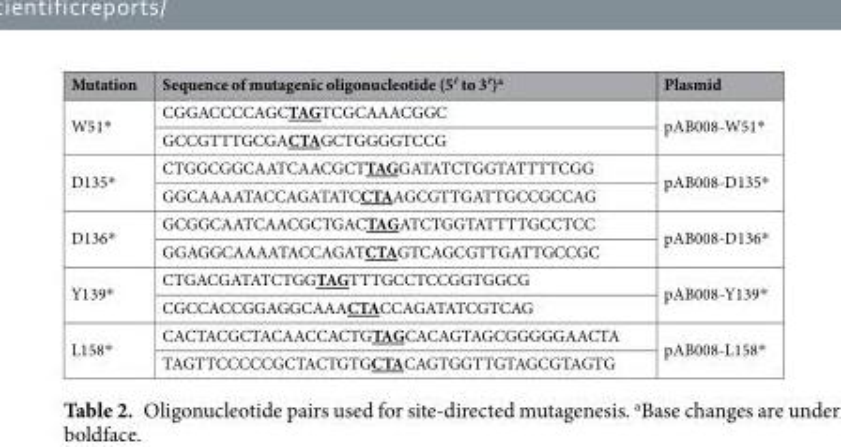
<table><thead><tr><td>Mutation</td><td>Sequence of mutagenic oligonucleotide (5′ to 3′)<sup>a</sup></td><td>Plasmid</td></tr></thead><tbody><tr><td rowspan="2">W51*</td><td>CGGACCCCAGCTAGTCGCAAACGGC</td><td rowspan="2">pAB008-W51*</td></tr><tr><td>GCCGTTTGCGACTAGCTGGGGTCCG</td></tr><tr><td rowspan="2">D135*</td><td>CTGGCGGCAATCAACGCTTAGGATATCTGGTATTTTCGG</td><td rowspan="2">pAB008-D135*</td></tr><tr><td>GGCAAAATACCAGATATCCTAAGCGTTGATTGCCGCCAG</td></tr><tr><td rowspan="2">D136*</td><td>GCGGCAATCAACGCTGACTAGATCTGGTATTTTGCCTCC</td><td rowspan="2">pAB008-D136*</td></tr><tr><td>GGAGGCAAAATACCAGATCTAGTCAGCGTTGATTGCCGC</td></tr><tr><td rowspan="2">Y139*</td><td>CTGACGATATCTGGTAGTTTGCCTCCGGTGGCG</td><td rowspan="2">pAB008-Y139*</td></tr><tr><td>CGCCACCGGAGGCAAACTACCAGATATCGTCAG</td></tr><tr><td rowspan="2">L158*</td><td>CACTACGCTACAACCACTGTAGCACAGTAGCGGGGGAACTA</td><td rowspan="2">pAB008-L158*</td></tr><tr><td>TAGTTCCCCCGCTACTGTGCTACAGTGGTTGTAGCGTAGTG</td></tr></tbody></table>